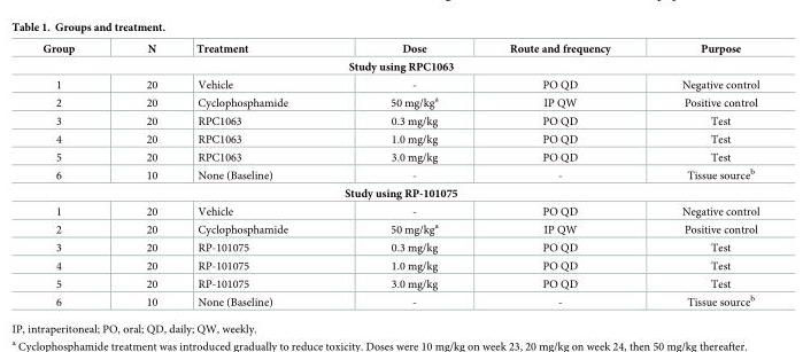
<table><thead><tr><td>Group</td><td>N</td><td>Treatment</td><td>Dose</td><td>Route and frequency</td><td>Purpose</td></tr></thead><tbody><tr><td colspan="6">Study using RPC1063</td></tr><tr><td>1</td><td>20</td><td>Vehicle</td><td>-</td><td>PO QD</td><td>Negative control</td></tr><tr><td>2</td><td>20</td><td>Cyclophosphamide</td><td>50 mg/kg<sup>a</sup></td><td>IP QW</td><td>Positive control</td></tr><tr><td>3</td><td>20</td><td>RPC1063</td><td>0.3 mg/kg</td><td>PO QD</td><td>Test</td></tr><tr><td>4</td><td>20</td><td>RPC1063</td><td>1.0 mg/kg</td><td>PO QD</td><td>Test</td></tr><tr><td>5</td><td>20</td><td>RPC1063</td><td>3.0 mg/kg</td><td>PO QD</td><td>Test</td></tr><tr><td>6</td><td>10</td><td>None (Baseline)</td><td>-</td><td>-</td><td>Tissue source<sup>b</sup></td></tr><tr><td colspan="6">Study using RP-101075</td></tr><tr><td>1</td><td>20</td><td>Vehicle</td><td>-</td><td>PO QD</td><td>Negative control</td></tr><tr><td>2</td><td>20</td><td>Cyclophosphamide</td><td>50 mg/kg<sup>a</sup></td><td>IP QW</td><td>Positive control</td></tr><tr><td>3</td><td>20</td><td>RP-101075</td><td>0.3 mg/kg</td><td>PO QD</td><td>Test</td></tr><tr><td>4</td><td>20</td><td>RP-101075</td><td>1.0 mg/kg</td><td>PO QD</td><td>Test</td></tr><tr><td>5</td><td>20</td><td>RP-101075</td><td>3.0 mg/kg</td><td>PO QD</td><td>Test</td></tr><tr><td>6</td><td>10</td><td>None (Baseline)</td><td>-</td><td>-</td><td>Tissue source<sup>b</sup></td></tr></tbody></table>